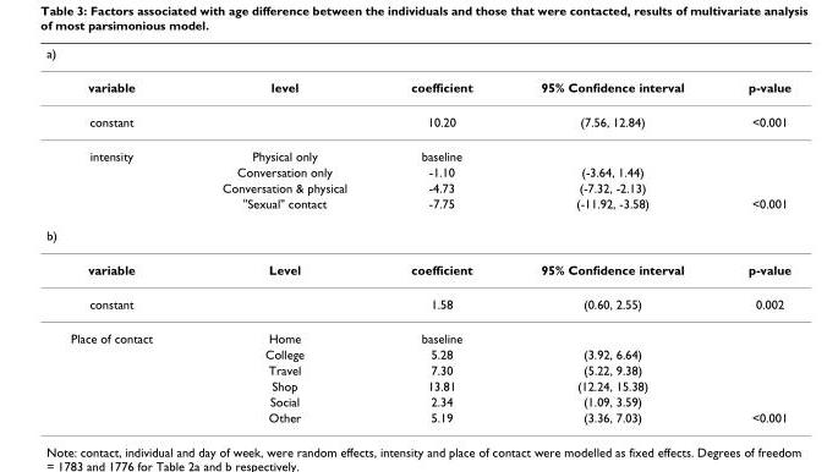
<table><thead><tr><td colspan="5">a)</td></tr><tr><td>variable</td><td>level</td><td>coefficient</td><td>95% Confidence interval</td><td>p-value</td></tr></thead><tbody><tr><td>constant</td><td></td><td>10.20</td><td>(7.56, 12.84)</td><td>&lt;0.001</td></tr><tr><td rowspan="4">intensity</td><td>Physical only</td><td>baseline</td><td></td><td></td></tr><tr><td>Conversation only</td><td>-1.10</td><td>(-3.64, 1.44)</td><td></td></tr><tr><td>Conversation &amp; physical</td><td>-4.73</td><td>(-7.32, -2.13)</td><td></td></tr><tr><td>&quot;Sexual&quot; contact</td><td>-7.75</td><td>(-11.92, -3.58)</td><td>&lt;0.001</td></tr><tr><td colspan="5">b)</td></tr><tr><td>variable</td><td>Level</td><td>coefficient</td><td>95% Confidence interval</td><td>p-value</td></tr><tr><td>constant</td><td></td><td>1.58</td><td>(0.60, 2.55)</td><td>0.002</td></tr><tr><td rowspan="6">Place of contact</td><td>Home</td><td>baseline</td><td></td><td></td></tr><tr><td>College</td><td>5.28</td><td>(3.92, 6.64)</td><td></td></tr><tr><td>Travel</td><td>7.30</td><td>(5.22, 9.38)</td><td></td></tr><tr><td>Shop</td><td>13.81</td><td>(12.24, 15.38)</td><td></td></tr><tr><td>Social</td><td>2.34</td><td>(1.09, 3.59)</td><td></td></tr><tr><td>Other</td><td>5.19</td><td>(3.36, 7.03)</td><td>&lt;0.001</td></tr></tbody></table>